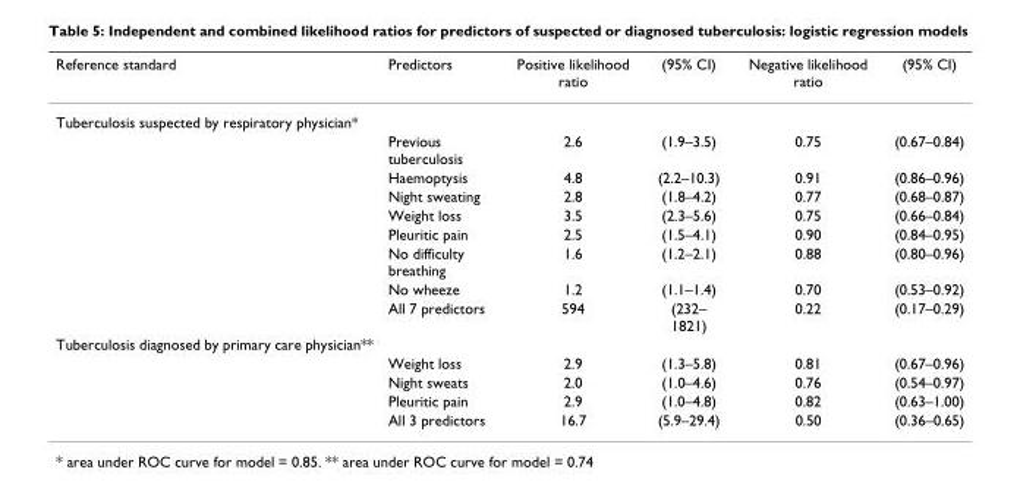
<table><thead><tr><td>Reference standard</td><td>Predictors</td><td>Positive likelihood ratio</td><td>(95% CI)</td><td>Negative likelihood ratio</td><td>(95% CI)</td></tr></thead><tbody><tr><td colspan="6">Tuberculosis suspected by respiratory physician*</td></tr><tr><td></td><td>Previous tuberculosis</td><td>2.6</td><td>(1.9–3.5)</td><td>0.75</td><td>(0.67–0.84)</td></tr><tr><td></td><td>Haemoptysis</td><td>4.8</td><td>(2.2–10.3)</td><td>0.91</td><td>(0.86–0.96)</td></tr><tr><td></td><td>Night sweating</td><td>2.8</td><td>(1.8–4.2)</td><td>0.77</td><td>(0.68–0.87)</td></tr><tr><td></td><td>Weight loss</td><td>3.5</td><td>(2.3–5.6)</td><td>0.75</td><td>(0.66–0.84)</td></tr><tr><td></td><td>Pleuritic pain</td><td>2.5</td><td>(1.5–4.1)</td><td>0.90</td><td>(0.84–0.95)</td></tr><tr><td></td><td>No difficulty breathing</td><td>1.6</td><td>(1.2–2.1)</td><td>0.88</td><td>(0.80–0.96)</td></tr><tr><td></td><td>No wheeze</td><td>1.2</td><td>(1.1–1.4)</td><td>0.70</td><td>(0.53–0.92)</td></tr><tr><td></td><td>All 7 predictors</td><td>594</td><td>(232– 1821)</td><td>0.22</td><td>(0.17–0.29)</td></tr><tr><td colspan="6">Tuberculosis diagnosed by primary care physician**</td></tr><tr><td></td><td>Weight loss</td><td>2.9</td><td>(1.3–5.8)</td><td>0.81</td><td>(0.67–0.96)</td></tr><tr><td></td><td>Night sweats</td><td>2.0</td><td>(1.0–4.6)</td><td>0.76</td><td>(0.54–0.97)</td></tr><tr><td></td><td>Pleuritic pain</td><td>2.9</td><td>(1.0–4.8)</td><td>0.82</td><td>(0.63–1.00)</td></tr><tr><td></td><td>All 3 predictors</td><td>16.7</td><td>(5.9–29.4)</td><td>0.50</td><td>(0.36–0.65)</td></tr></tbody></table>